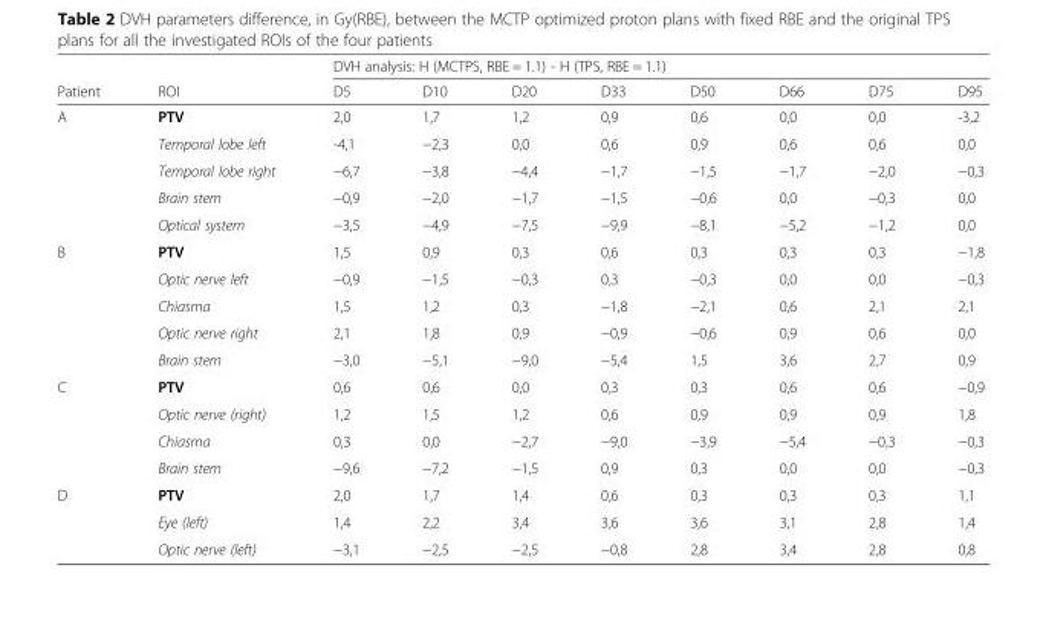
<table><thead><tr><td rowspan="2">Patient</td><td rowspan="2">ROI</td><td colspan="8">DVH analysis: H (MCTPS, RBE = 1.1) - H (TPS, RBE = 1.1)</td></tr><tr><td>D5</td><td>D10</td><td>D20</td><td>D33</td><td>D50</td><td>D66</td><td>D75</td><td>D95</td></tr></thead><tbody><tr><td rowspan="5">A</td><td>PTV</td><td>2,0</td><td>1,7</td><td>1,2</td><td>0,9</td><td>0,6</td><td>0,0</td><td>0,0</td><td>-3,2</td></tr><tr><td>Temporal lobe left</td><td>-4,1</td><td>−2,3</td><td>0,0</td><td>0,6</td><td>0,9</td><td>0,6</td><td>0,6</td><td>0,0</td></tr><tr><td>Temporal lobe right</td><td>−6,7</td><td>−3,8</td><td>−4,4</td><td>−1,7</td><td>−1,5</td><td>−1,7</td><td>−2,0</td><td>−0,3</td></tr><tr><td>Brain stem</td><td>−0,9</td><td>−2,0</td><td>−1,7</td><td>−1,5</td><td>−0,6</td><td>0,0</td><td>−0,3</td><td>0,0</td></tr><tr><td>Optical system</td><td>−3,5</td><td>−4,9</td><td>−7,5</td><td>−9,9</td><td>−8,1</td><td>−5,2</td><td>−1,2</td><td>0,0</td></tr><tr><td rowspan="5">B</td><td>PTV</td><td>1,5</td><td>0,9</td><td>0,3</td><td>0,6</td><td>0,3</td><td>0,3</td><td>0,3</td><td>−1,8</td></tr><tr><td>Optic nerve left</td><td>−0,9</td><td>−1,5</td><td>−0,3</td><td>0,3</td><td>−0,3</td><td>0,0</td><td>0,0</td><td>−0,3</td></tr><tr><td>Chiasma</td><td>1,5</td><td>1,2</td><td>0,3</td><td>−1,8</td><td>−2,1</td><td>0,6</td><td>2,1</td><td>2,1</td></tr><tr><td>Optic nerve right</td><td>2,1</td><td>1,8</td><td>0,9</td><td>−0,9</td><td>−0,6</td><td>0,9</td><td>0,6</td><td>0,0</td></tr><tr><td>Brain stem</td><td>−3,0</td><td>−5,1</td><td>−9,0</td><td>−5,4</td><td>1,5</td><td>3,6</td><td>2,7</td><td>0,9</td></tr><tr><td rowspan="4">C</td><td>PTV</td><td>0,6</td><td>0,6</td><td>0,0</td><td>0,3</td><td>0,3</td><td>0,6</td><td>0,6</td><td>−0,9</td></tr><tr><td>Optic nerve (right)</td><td>1,2</td><td>1,5</td><td>1,2</td><td>0,6</td><td>0,9</td><td>0,9</td><td>0,9</td><td>1,8</td></tr><tr><td>Chiasma</td><td>0,3</td><td>0,0</td><td>−2,7</td><td>−9,0</td><td>−3,9</td><td>−5,4</td><td>−0,3</td><td>−0,3</td></tr><tr><td>Brain stem</td><td>−9,6</td><td>−7,2</td><td>−1,5</td><td>0,9</td><td>0,3</td><td>0,0</td><td>0,0</td><td>−0,3</td></tr><tr><td rowspan="3">D</td><td>PTV</td><td>2,0</td><td>1,7</td><td>1,4</td><td>0,6</td><td>0,3</td><td>0,3</td><td>0,3</td><td>1,1</td></tr><tr><td>Eye (left)</td><td>1,4</td><td>2,2</td><td>3,4</td><td>3,6</td><td>3,6</td><td>3,1</td><td>2,8</td><td>1,4</td></tr><tr><td>Optic nerve (left)</td><td>−3,1</td><td>−2,5</td><td>−2,5</td><td>−0,8</td><td>2,8</td><td>3,4</td><td>2,8</td><td>0,8</td></tr></tbody></table>